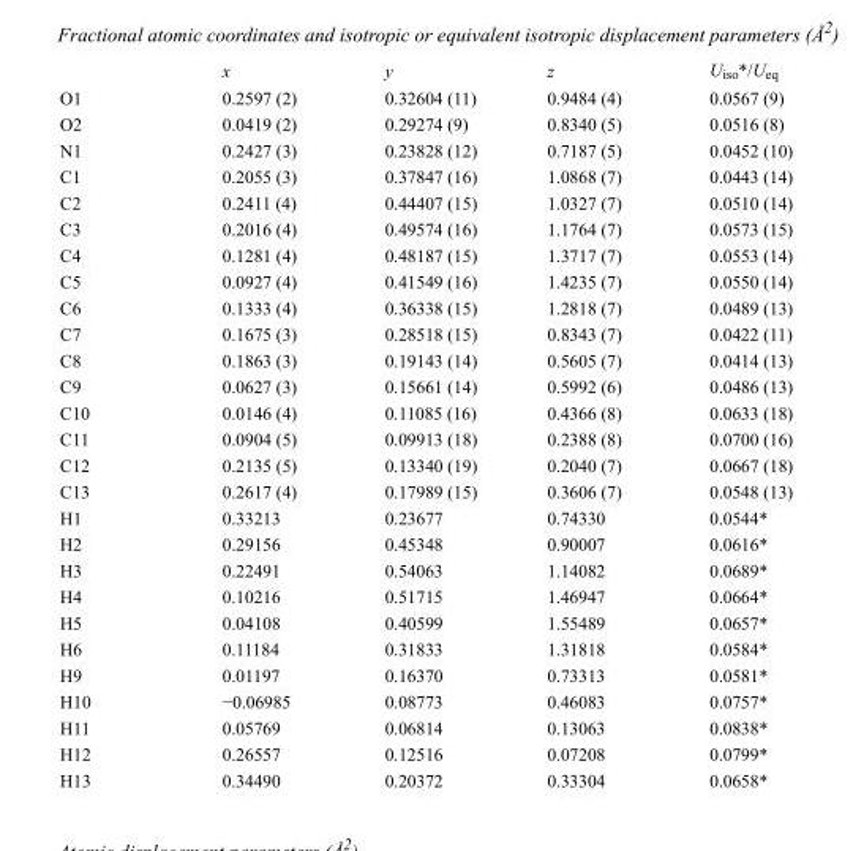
<table><thead><tr><td></td><td>x</td><td>y</td><td>z</td><td>U<sub>iso</sub>*/U<sub>eq</sub></td></tr></thead><tbody><tr><td>O1</td><td>0.2597 (2)</td><td>0.32604 (11)</td><td>0.9484 (4)</td><td>0.0567 (9)</td></tr><tr><td>O2</td><td>0.0419 (2)</td><td>0.29274 (9)</td><td>0.8340 (5)</td><td>0.0516 (8)</td></tr><tr><td>N1</td><td>0.2427 (3)</td><td>0.23828 (12)</td><td>0.7187 (5)</td><td>0.0452 (10)</td></tr><tr><td>C1</td><td>0.2055 (3)</td><td>0.37847 (16)</td><td>1.0868 (7)</td><td>0.0443 (14)</td></tr><tr><td>C2</td><td>0.2411 (4)</td><td>0.44407 (15)</td><td>1.0327 (7)</td><td>0.0510 (14)</td></tr><tr><td>C3</td><td>0.2016 (4)</td><td>0.49574 (16)</td><td>1.1764 (7)</td><td>0.0573 (15)</td></tr><tr><td>C4</td><td>0.1281 (4)</td><td>0.48187 (15)</td><td>1.3717 (7)</td><td>0.0553 (14)</td></tr><tr><td>C5</td><td>0.0927 (4)</td><td>0.41549 (16)</td><td>1.4235 (7)</td><td>0.0550 (14)</td></tr><tr><td>C6</td><td>0.1333 (4)</td><td>0.36338 (15)</td><td>1.2818 (7)</td><td>0.0489 (13)</td></tr><tr><td>C7</td><td>0.1675 (3)</td><td>0.28518 (15)</td><td>0.8343 (7)</td><td>0.0422 (11)</td></tr><tr><td>C8</td><td>0.1863 (3)</td><td>0.19143 (14)</td><td>0.5605 (7)</td><td>0.0414 (13)</td></tr><tr><td>C9</td><td>0.0627 (3)</td><td>0.15661 (14)</td><td>0.5992 (6)</td><td>0.0486 (13)</td></tr><tr><td>C10</td><td>0.0146 (4)</td><td>0.11085 (16)</td><td>0.4366 (8)</td><td>0.0633 (18)</td></tr><tr><td>C11</td><td>0.0904 (5)</td><td>0.09913 (18)</td><td>0.2388 (8)</td><td>0.0700 (16)</td></tr><tr><td>C12</td><td>0.2135 (5)</td><td>0.13340 (19)</td><td>0.2040 (7)</td><td>0.0667 (18)</td></tr><tr><td>C13</td><td>0.2617 (4)</td><td>0.17989 (15)</td><td>0.3606 (7)</td><td>0.0548 (13)</td></tr><tr><td>H1</td><td>0.33213</td><td>0.23677</td><td>0.74330</td><td>0.0544*</td></tr><tr><td>H2</td><td>0.29156</td><td>0.45348</td><td>0.90007</td><td>0.0616*</td></tr><tr><td>H3</td><td>0.22491</td><td>0.54063</td><td>1.14082</td><td>0.0689*</td></tr><tr><td>H4</td><td>0.10216</td><td>0.51715</td><td>1.46947</td><td>0.0664*</td></tr><tr><td>H5</td><td>0.04108</td><td>0.40599</td><td>1.55489</td><td>0.0657*</td></tr><tr><td>H6</td><td>0.11184</td><td>0.31833</td><td>1.31818</td><td>0.0584*</td></tr><tr><td>H9</td><td>0.01197</td><td>0.16370</td><td>0.73313</td><td>0.0581*</td></tr><tr><td>H10</td><td>−0.06985</td><td>0.08773</td><td>0.46083</td><td>0.0757*</td></tr><tr><td>H11</td><td>0.05769</td><td>0.06814</td><td>0.13063</td><td>0.0838*</td></tr><tr><td>H12</td><td>0.26557</td><td>0.12516</td><td>0.07208</td><td>0.0799*</td></tr><tr><td>H13</td><td>0.34490</td><td>0.20372</td><td>0.33304</td><td>0.0658*</td></tr></tbody></table>